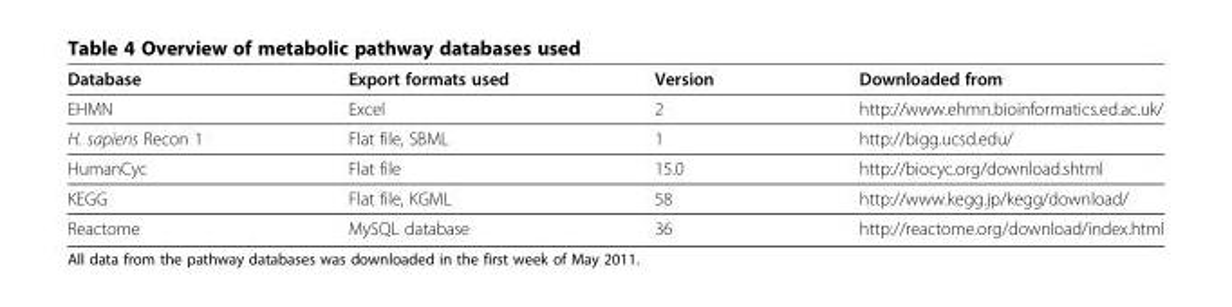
<table><thead><tr><td>Database</td><td>Export formats used</td><td>Version</td><td>Downloaded from</td></tr></thead><tbody><tr><td>EHMN</td><td>Excel</td><td>2</td><td>http://www.ehmn.bioinformatics.ed.ac.uk/</td></tr><tr><td>H. sapiens Recon 1</td><td>Flat file, SBML</td><td>1</td><td>http://bigg.ucsd.edu/</td></tr><tr><td>HumanCyc</td><td>Flat file</td><td>15.0</td><td>http://biocyc.org/download.shtml</td></tr><tr><td>KEGG</td><td>Flat file, KGML</td><td>58</td><td>http://www.kegg.jp/kegg/download/</td></tr><tr><td>Reactome</td><td>MySQL database</td><td>36</td><td>http://reactome.org/download/index.html</td></tr></tbody></table>